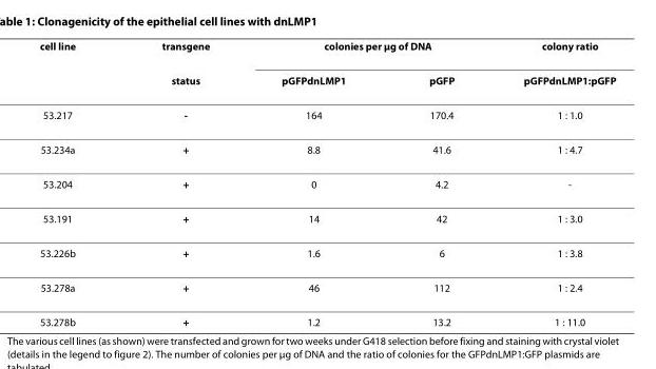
<table><thead><tr><td rowspan="2">cell line</td><td rowspan="2">transgene status</td><td colspan="2">colonies per μg of DNA</td><td rowspan="2">colony ratio pGFPdnLMP1:pGFP</td></tr><tr><td>pGFPdnLMP1</td><td>pGFP</td></tr></thead><tbody><tr><td>53.217</td><td>-</td><td>164</td><td>170.4</td><td>1 : 1.0</td></tr><tr><td>53.234a</td><td>+</td><td>8.8</td><td>41.6</td><td>1 : 4.7</td></tr><tr><td>53.204</td><td>+</td><td>0</td><td>4.2</td><td>-</td></tr><tr><td>53.191</td><td>+</td><td>14</td><td>42</td><td>1 : 3.0</td></tr><tr><td>53.226b</td><td>+</td><td>1.6</td><td>6</td><td>1 : 3.8</td></tr><tr><td>53.278a</td><td>+</td><td>46</td><td>112</td><td>1 : 2.4</td></tr><tr><td>53.278b</td><td>+</td><td>1.2</td><td>13.2</td><td>1 : 11.0</td></tr></tbody></table>